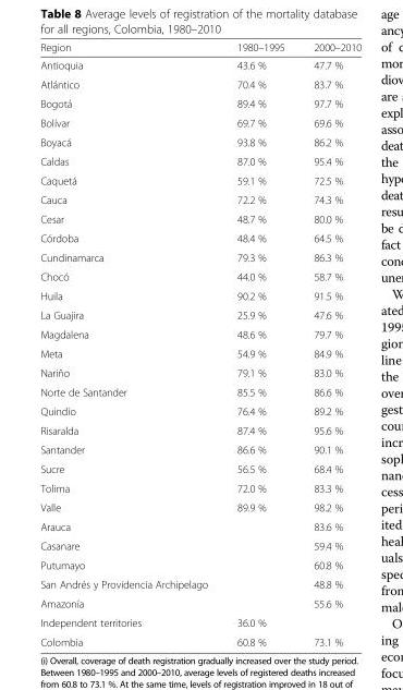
<table><thead><tr><td>Region</td><td>1980–1995</td><td>2000–2010</td></tr></thead><tbody><tr><td>Antioquia</td><td>43.6 %</td><td>47.7 %</td></tr><tr><td>Atlántico</td><td>70.4 %</td><td>83.7 %</td></tr><tr><td>Bogotá</td><td>89.4 %</td><td>97.7 %</td></tr><tr><td>Bolívar</td><td>69.7 %</td><td>69.6 %</td></tr><tr><td>Boyacá</td><td>93.8 %</td><td>86.2 %</td></tr><tr><td>Caldas</td><td>87.0 %</td><td>95.4 %</td></tr><tr><td>Caquetá</td><td>59.1 %</td><td>72.5 %</td></tr><tr><td>Cauca</td><td>72.2 %</td><td>74.3 %</td></tr><tr><td>Cesar</td><td>48.7 %</td><td>80.0 %</td></tr><tr><td>Córdoba</td><td>48.4 %</td><td>64.5 %</td></tr><tr><td>Cundinamarca</td><td>79.3 %</td><td>86.3 %</td></tr><tr><td>Chocó</td><td>44.0 %</td><td>58.7 %</td></tr><tr><td>Huila</td><td>90.2 %</td><td>91.5 %</td></tr><tr><td>La Guajira</td><td>25.9 %</td><td>47.6 %</td></tr><tr><td>Magdalena</td><td>48.6 %</td><td>79.7 %</td></tr><tr><td>Meta</td><td>54.9 %</td><td>84.9 %</td></tr><tr><td>Nariño</td><td>79.1 %</td><td>83.0 %</td></tr><tr><td>Norte de Santander</td><td>85.5 %</td><td>86.6 %</td></tr><tr><td>Quindío</td><td>76.4 %</td><td>89.2 %</td></tr><tr><td>Risaralda</td><td>87.4 %</td><td>95.6 %</td></tr><tr><td>Santander</td><td>86.6 %</td><td>90.1 %</td></tr><tr><td>Sucre</td><td>56.5 %</td><td>68.4 %</td></tr><tr><td>Tolima</td><td>72.0 %</td><td>83.3 %</td></tr><tr><td>Valle</td><td>89.9 %</td><td>98.2 %</td></tr><tr><td>Arauca</td><td></td><td>83.6 %</td></tr><tr><td>Casanare</td><td></td><td>59.4 %</td></tr><tr><td>Putumayo</td><td></td><td>60.8 %</td></tr><tr><td>San Andrés y Providencia Archipelago</td><td></td><td>48.8 %</td></tr><tr><td>Amazonía</td><td></td><td>55.6 %</td></tr><tr><td>Independent territories</td><td>36.0 %</td><td></td></tr><tr><td>Colombia</td><td>60.8 %</td><td>73.1 %</td></tr></tbody></table>